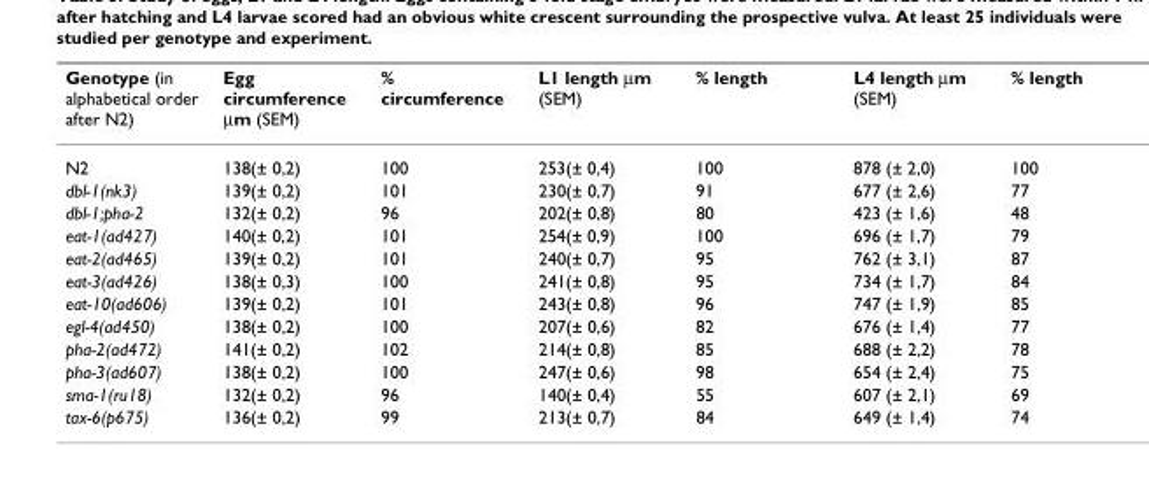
<table><thead><tr><td>Genotype (in alphabetical order after N2)</td><td>Egg circumference μm (SEM)</td><td>% circumference</td><td>L1 length μm (SEM)</td><td>% length</td><td>L4 length μm (SEM)</td><td>% length</td></tr></thead><tbody><tr><td>N2</td><td>138(± 0,2)</td><td>100</td><td>253(± 0,4)</td><td>100</td><td>878 (± 2,0)</td><td>100</td></tr><tr><td>dbl-1(nk3)</td><td>139(± 0,2)</td><td>101</td><td>230(± 0,7)</td><td>91</td><td>677 (± 2,6)</td><td>77</td></tr><tr><td>dbl-1;pha-2</td><td>132(± 0,2)</td><td>96</td><td>202(± 0,8)</td><td>80</td><td>423 (± 1,6)</td><td>48</td></tr><tr><td>eat-1(ad427)</td><td>140(± 0,2)</td><td>101</td><td>254(± 0,9)</td><td>100</td><td>696 (± 1,7)</td><td>79</td></tr><tr><td>eat-2(ad465)</td><td>139(± 0,2)</td><td>101</td><td>240(± 0,7)</td><td>95</td><td>762 (± 3,1)</td><td>87</td></tr><tr><td>eat-3(ad426)</td><td>138(± 0,3)</td><td>100</td><td>241(± 0,8)</td><td>95</td><td>734 (± 1,7)</td><td>84</td></tr><tr><td>eat-10(ad606)</td><td>139(± 0,2)</td><td>101</td><td>243(± 0,8)</td><td>96</td><td>747 (± 1,9)</td><td>85</td></tr><tr><td>egl-4(ad450)</td><td>138(± 0,2)</td><td>100</td><td>207(± 0,6)</td><td>82</td><td>676 (± 1,4)</td><td>77</td></tr><tr><td>pha-2(ad472)</td><td>141(± 0,2)</td><td>102</td><td>214(± 0,8)</td><td>85</td><td>688 (± 2,2)</td><td>78</td></tr><tr><td>pha-3(ad607)</td><td>138(± 0,2)</td><td>100</td><td>247(± 0,6)</td><td>98</td><td>654 (± 2,4)</td><td>75</td></tr><tr><td>sma-1(ru18)</td><td>132(± 0,2)</td><td>96</td><td>140(± 0,4)</td><td>55</td><td>607 (± 2,1)</td><td>69</td></tr><tr><td>tax-6(p675)</td><td>136(± 0,2)</td><td>99</td><td>213(± 0,7)</td><td>84</td><td>649 (± 1,4)</td><td>74</td></tr></tbody></table>